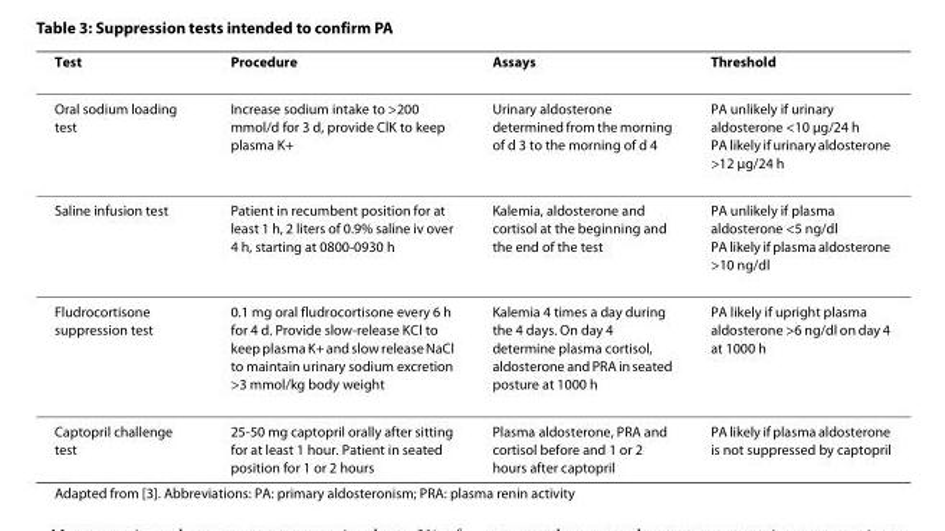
<table><thead><tr><td>Test</td><td>Procedure</td><td>Assays</td><td>Threshold</td></tr></thead><tbody><tr><td>Oral sodium loading test</td><td>Increase sodium intake to &gt;200 mmol/d for 3 d, provide ClK to keep plasma K+</td><td>Urinary aldosterone determined from the morning of d 3 to the morning of d 4</td><td>PA unlikely if urinary aldosterone &lt;10 μg/24 h PA likely if urinary aldosterone &gt;12 μg/24 h</td></tr><tr><td>Saline infusion test</td><td>Patient in recumbent position for at least 1 h, 2 liters of 0.9% saline iv over 4 h, starting at 0800-0930 h</td><td>Kalemia, aldosterone and cortisol at the beginning and the end of the test</td><td>PA unlikely if plasma aldosterone &lt;5 ng/dl PA likely if plasma aldosterone &gt;10 ng/dl</td></tr><tr><td>Fludrocortisone suppression test</td><td>0.1 mg oral fludrocortisone every 6 h for 4 d. Provide slow-release KCl to keep plasma K+ and slow release NaCl to maintain urinary sodium excretion &gt;3 mmol/kg body weight</td><td>Kalemia 4 times a day during the 4 days. On day 4 determine plasma cortisol, aldosterone and PRA in seated posture at 1000 h</td><td>PA likely if upright plasma aldosterone &gt;6 ng/dl on day 4 at 1000 h</td></tr><tr><td>Captopril challenge test</td><td>25-50 mg captopril orally after sitting for at least 1 hour. Patient in seated position for 1 or 2 hours</td><td>Plasma aldosterone, PRA and cortisol before and 1 or 2 hours after captopril</td><td>PA likely if plasma aldosterone is not suppressed by captopril</td></tr></tbody></table>